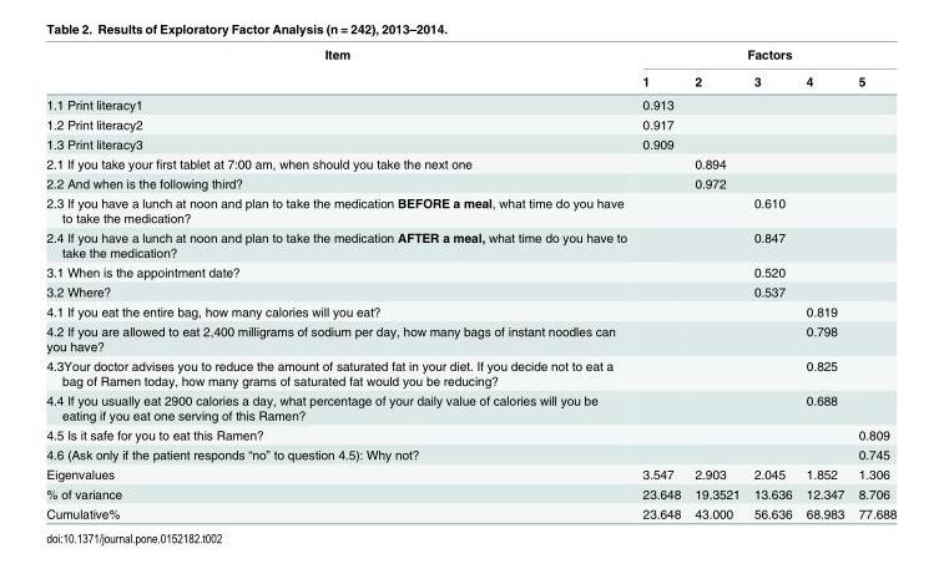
<table><thead><tr><td rowspan="2">Item</td><td colspan="5">Factors</td></tr><tr><td>1</td><td>2</td><td>3</td><td>4</td><td>5</td></tr></thead><tbody><tr><td>1.1 Print literacy1</td><td>0.913</td><td></td><td></td><td></td><td></td></tr><tr><td>1.2 Print literacy2</td><td>0.917</td><td></td><td></td><td></td><td></td></tr><tr><td>1.3 Print literacy3</td><td>0.909</td><td></td><td></td><td></td><td></td></tr><tr><td>2.1 If you take your first tablet at 7:00 am, when should you take the next one</td><td></td><td>0.894</td><td></td><td></td><td></td></tr><tr><td>2.2 And when is the following third?</td><td></td><td>0.972</td><td></td><td></td><td></td></tr><tr><td>2.3 If you have a lunch at noon and plan to take the medication BEFORE a meal, what time do you have to take the medication?</td><td></td><td></td><td>0.610</td><td></td><td></td></tr><tr><td>2.4 If you have a lunch at noon and plan to take the medication AFTER a meal, what time do you have to take the medication?</td><td></td><td></td><td>0.847</td><td></td><td></td></tr><tr><td>3.1 When is the appointment date?</td><td></td><td></td><td>0.520</td><td></td><td></td></tr><tr><td>3.2 Where?</td><td></td><td></td><td>0.537</td><td></td><td></td></tr><tr><td>4.1 If you eat the entire bag, how many calories will you eat?</td><td></td><td></td><td></td><td>0.819</td><td></td></tr><tr><td>4.2 If you are allowed to eat 2,400 milligrams of sodium per day, how many bags of instant noodles can you have?</td><td></td><td></td><td></td><td>0.798</td><td></td></tr><tr><td>4.3Your doctor advises you to reduce the amount of saturated fat in your diet. If you decide not to eat a bag of Ramen today, how many grams of saturated fat would you be reducing?</td><td></td><td></td><td></td><td>0.825</td><td></td></tr><tr><td>4.4 If you usually eat 2900 calories a day, what percentage of your daily value of calories will you be eating if you eat one serving of this Ramen?</td><td></td><td></td><td></td><td>0.688</td><td></td></tr><tr><td>4.5 Is it safe for you to eat this Ramen?</td><td></td><td></td><td></td><td></td><td>0.809</td></tr><tr><td>4.6 (Ask only if the patient responds “no” to question 4.5): Why not?</td><td></td><td></td><td></td><td></td><td>0.745</td></tr><tr><td>Eigenvalues</td><td>3.547</td><td>2.903</td><td>2.045</td><td>1.852</td><td>1.306</td></tr><tr><td>% of variance</td><td>23.648</td><td>19.3521</td><td>13.636</td><td>12.347</td><td>8.706</td></tr><tr><td>Cumulative%</td><td>23.648</td><td>43.000</td><td>56.636</td><td>68.983</td><td>77.688</td></tr></tbody></table>